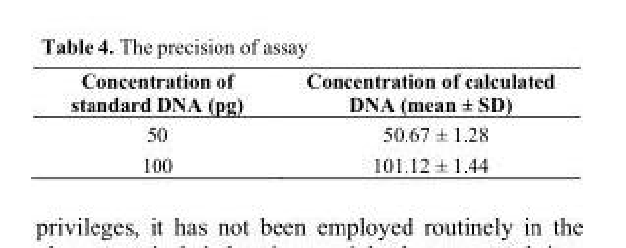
<table><thead><tr><td>Concentration of standard DNA (pg)</td><td>Concentration of calculated DNA (mean ± SD)</td></tr></thead><tbody><tr><td>50</td><td>50.67 ± 1.28</td></tr><tr><td>100</td><td>101.12 ± 1.44</td></tr></tbody></table>